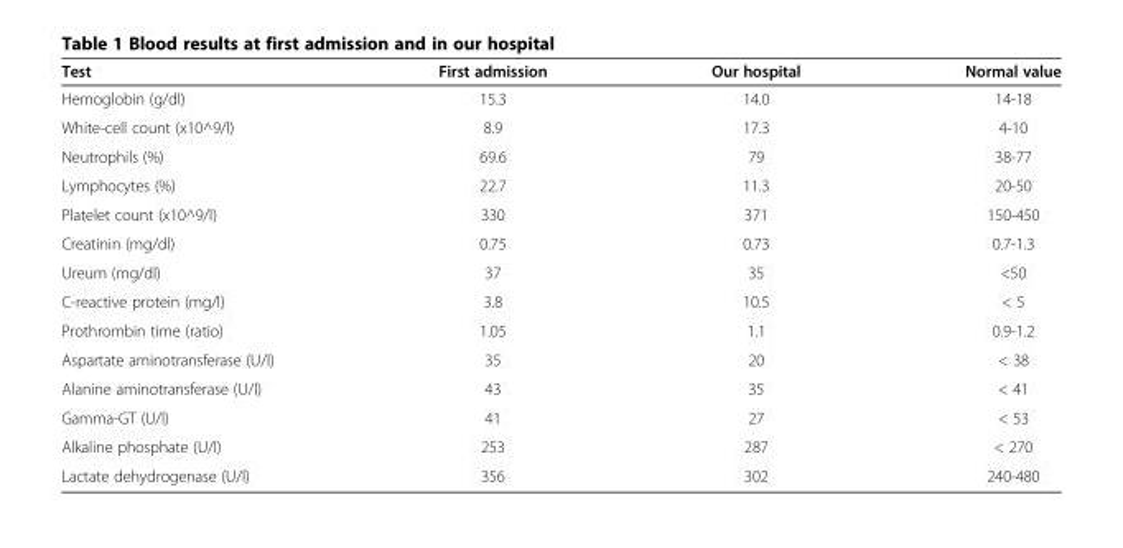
<table><thead><tr><td>Test</td><td>First admission</td><td>Our hospital</td><td>Normal value</td></tr></thead><tbody><tr><td>Hemoglobin (g/dl)</td><td>15.3</td><td>14.0</td><td>14-18</td></tr><tr><td>White-cell count (x10^9/l)</td><td>8.9</td><td>17.3</td><td>4-10</td></tr><tr><td>Neutrophils (%)</td><td>69.6</td><td>79</td><td>38-77</td></tr><tr><td>Lymphocytes (%)</td><td>22.7</td><td>11.3</td><td>20-50</td></tr><tr><td>Platelet count (x10^9/l)</td><td>330</td><td>371</td><td>150-450</td></tr><tr><td>Creatinin (mg/dl)</td><td>0.75</td><td>0.73</td><td>0.7-1.3</td></tr><tr><td>Ureum (mg/dl)</td><td>37</td><td>35</td><td>&lt;50</td></tr><tr><td>C-reactive protein (mg/l)</td><td>3.8</td><td>10.5</td><td>&lt; 5</td></tr><tr><td>Prothrombin time (ratio)</td><td>1.05</td><td>1.1</td><td>0.9-1.2</td></tr><tr><td>Aspartate aminotransferase (U/l)</td><td>35</td><td>20</td><td>&lt; 38</td></tr><tr><td>Alanine aminotransferase (U/l)</td><td>43</td><td>35</td><td>&lt; 41</td></tr><tr><td>Gamma-GT (U/l)</td><td>41</td><td>27</td><td>&lt; 53</td></tr><tr><td>Alkaline phosphate (U/l)</td><td>253</td><td>287</td><td>&lt; 270</td></tr><tr><td>Lactate dehydrogenase (U/l)</td><td>356</td><td>302</td><td>240-480</td></tr></tbody></table>